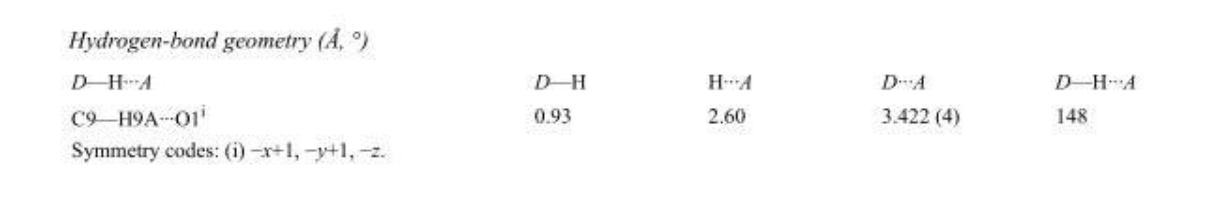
<table><tbody><tr><td>D—H···A</td><td>D—H</td><td>H···A</td><td>D···A</td><td>D—H···A</td></tr><tr><td>C9—H9A···O1<sup>i</sup></td><td>0.93</td><td>2.60</td><td>3.422 (4)</td><td>148</td></tr></tbody></table>